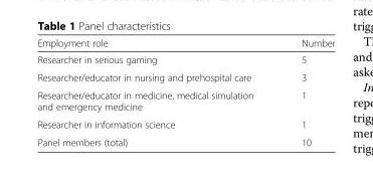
<table><thead><tr><td>Employment role</td><td>Number</td></tr></thead><tbody><tr><td>Researcher in serious gaming</td><td>5</td></tr><tr><td>Researcher/educator in nursing and prehospital care</td><td>3</td></tr><tr><td>Researcher/educator in medicine, medical simulation and emergency medicine</td><td>1</td></tr><tr><td>Researcher in information science</td><td>1</td></tr><tr><td>Panel members (total)</td><td>10</td></tr></tbody></table>